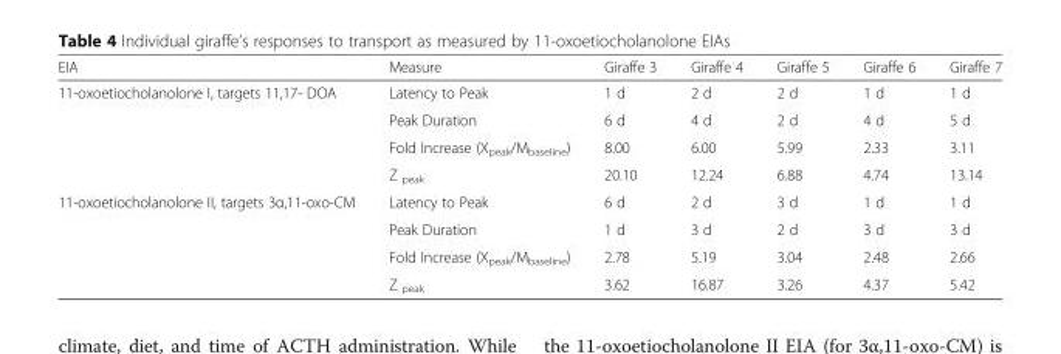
<table><thead><tr><td>EIA</td><td>Measure</td><td>Giraffe 3</td><td>Giraffe 4</td><td>Giraffe 5</td><td>Giraffe 6</td><td>Giraffe 7</td></tr></thead><tbody><tr><td rowspan="4">11-oxoetiocholanolone I, targets 11,17- DOA</td><td>Latency to Peak</td><td>1 d</td><td>2 d</td><td>2 d</td><td>1 d</td><td>1 d</td></tr><tr><td>Peak Duration</td><td>6 d</td><td>4 d</td><td>2 d</td><td>4 d</td><td>5 d</td></tr><tr><td>Fold Increase (X<sub>peak</sub>/M<sub>baseline</sub>)</td><td>8.00</td><td>6.00</td><td>5.99</td><td>2.33</td><td>3.11</td></tr><tr><td>Z <sub>peak</sub></td><td>20.10</td><td>12.24</td><td>6.88</td><td>4.74</td><td>13.14</td></tr><tr><td rowspan="4">11-oxoetiocholanolone II, targets 3α,11-oxo-CM</td><td>Latency to Peak</td><td>6 d</td><td>2 d</td><td>3 d</td><td>1 d</td><td>1 d</td></tr><tr><td>Peak Duration</td><td>1 d</td><td>3 d</td><td>2 d</td><td>3 d</td><td>3 d</td></tr><tr><td>Fold Increase (X<sub>peak</sub>/M<sub>baseline</sub>)</td><td>2.78</td><td>5.19</td><td>3.04</td><td>2.48</td><td>2.66</td></tr><tr><td>Z <sub>peak</sub></td><td>3.62</td><td>16.87</td><td>3.26</td><td>4.37</td><td>5.42</td></tr></tbody></table>